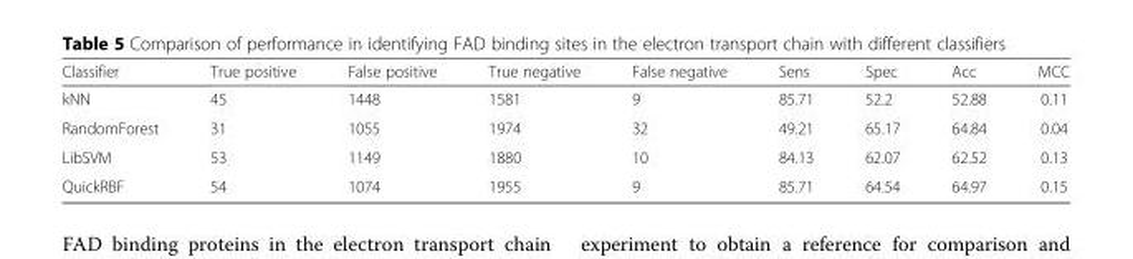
<table><thead><tr><td>Classifier</td><td>True positive</td><td>False positive</td><td>True negative</td><td>False negative</td><td>Sens</td><td>Spec</td><td>Acc</td><td>MCC</td></tr></thead><tbody><tr><td>kNN</td><td>45</td><td>1448</td><td>1581</td><td>9</td><td>85.71</td><td>52.2</td><td>52.88</td><td>0.11</td></tr><tr><td>RandomForest</td><td>31</td><td>1055</td><td>1974</td><td>32</td><td>49.21</td><td>65.17</td><td>64.84</td><td>0.04</td></tr><tr><td>LibSVM</td><td>53</td><td>1149</td><td>1880</td><td>10</td><td>84.13</td><td>62.07</td><td>62.52</td><td>0.13</td></tr><tr><td>QuickRBF</td><td>54</td><td>1074</td><td>1955</td><td>9</td><td>85.71</td><td>64.54</td><td>64.97</td><td>0.15</td></tr></tbody></table>